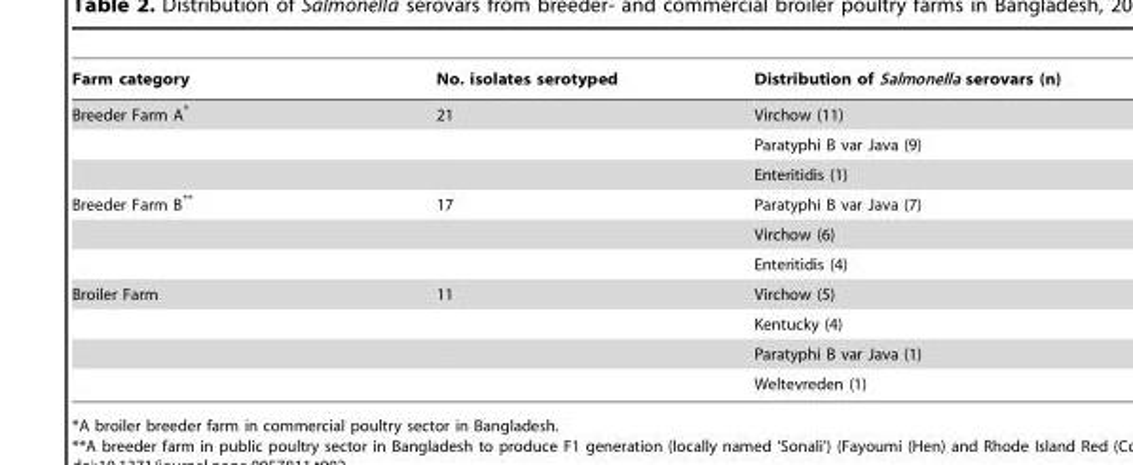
<table><thead><tr><td>Farm category</td><td>No. isolates serotyped</td><td>Distribution of Salmonella serovars (n)</td></tr></thead><tbody><tr><td rowspan="3">Breeder Farm A*</td><td>21</td><td>Virchow (11)</td></tr><tr><td></td><td>Paratyphi B var Java (9)</td></tr><tr><td></td><td>Enteritidis (1)</td></tr><tr><td rowspan="3">Breeder Farm B**</td><td>17</td><td>Paratyphi B var Java (7)</td></tr><tr><td></td><td>Virchow (6)</td></tr><tr><td></td><td>Enteritidis (4)</td></tr><tr><td rowspan="4">Broiler Farm</td><td>11</td><td>Virchow (5)</td></tr><tr><td></td><td>Kentucky (4)</td></tr><tr><td></td><td>Paratyphi B var Java (1)</td></tr><tr><td></td><td>Weltevreden (1)</td></tr></tbody></table>